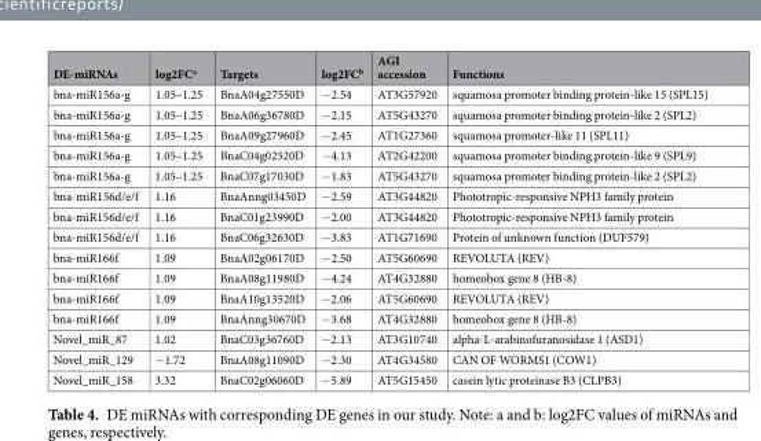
<table><thead><tr><td>DE-miRNAs</td><td>log2FC<sup>a</sup></td><td>Targets</td><td>log2FC<sup>b</sup></td><td>AGI accession</td><td>Functions</td></tr></thead><tbody><tr><td>bna-miR156a-g</td><td>1.05–1.25</td><td>BnaA04g27550D</td><td>−2.54</td><td>AT3G57920</td><td>squamosa promoter binding protein-like 15 (SPL15)</td></tr><tr><td>bna-miR156a-g</td><td>1.05–1.25</td><td>BnaA06g36780D</td><td>−2.15</td><td>AT5G43270</td><td>squamosa promoter binding protein-like 2 (SPL2)</td></tr><tr><td>bna-miR156a-g</td><td>1.05–1.25</td><td>BnaA09g27960D</td><td>−2.45</td><td>AT1G27360</td><td>squamosa promoter-like 11 (SPL11)</td></tr><tr><td>bna-miR156a-g</td><td>1.05–1.25</td><td>BnaC04g02520D</td><td>−4.13</td><td>AT2G42200</td><td>squamosa promoter binding protein-like 9 (SPL9)</td></tr><tr><td>bna-miR156a-g</td><td>1.05–1.25</td><td>BnaC07g17030D</td><td>−1.83</td><td>AT5G43270</td><td>squamosa promoter binding protein-like 2 (SPL2)</td></tr><tr><td>bna-miR156d/e/f</td><td>1.16</td><td>BnaAnng03450D</td><td>−2.59</td><td>AT3G44820</td><td>Phototropic-responsive NPH3 family protein</td></tr><tr><td>bna-miR156d/e/f</td><td>1.16</td><td>BnaC01g23990D</td><td>−2.00</td><td>AT3G44820</td><td>Phototropic-responsive NPH3 family protein</td></tr><tr><td>bna-miR156d/e/f</td><td>1.16</td><td>BnaC06g32630D</td><td>−3.83</td><td>AT1G71690</td><td>Protein of unknown function (DUF579)</td></tr><tr><td>bna-miR166f</td><td>1.09</td><td>BnaA02g06170D</td><td>−2.50</td><td>AT5G60690</td><td>REVOLUTA (REV)</td></tr><tr><td>bna-miR166f</td><td>1.09</td><td>BnaA08g11980D</td><td>−4.24</td><td>AT4G32880</td><td>homeobox gene 8 (HB-8)</td></tr><tr><td>bna-miR166f</td><td>1.09</td><td>BnaA10g13520D</td><td>−2.06</td><td>AT5G60690</td><td>REVOLUTA (REV)</td></tr><tr><td>bna-miR166f</td><td>1.09</td><td>BnaAnng30670D</td><td>−3.68</td><td>AT4G32880</td><td>homeobox gene 8 (HB-8)</td></tr><tr><td>Novel_miR_87</td><td>1.02</td><td>BnaC03g36760D</td><td>−2.13</td><td>AT3G10740</td><td>alpha-L-arabinofuranosidase 1 (ASD1)</td></tr><tr><td>Novel_miR_129</td><td>−1.72</td><td>BnaA08g11090D</td><td>−2.30</td><td>AT4G34580</td><td>CAN OF WORMS1 (COW1)</td></tr><tr><td>Novel_miR_158</td><td>3.32</td><td>BnaC02g06060D</td><td>−5.89</td><td>AT5G15450</td><td>casein lytic proteinase B3 (CLPB3)</td></tr></tbody></table>